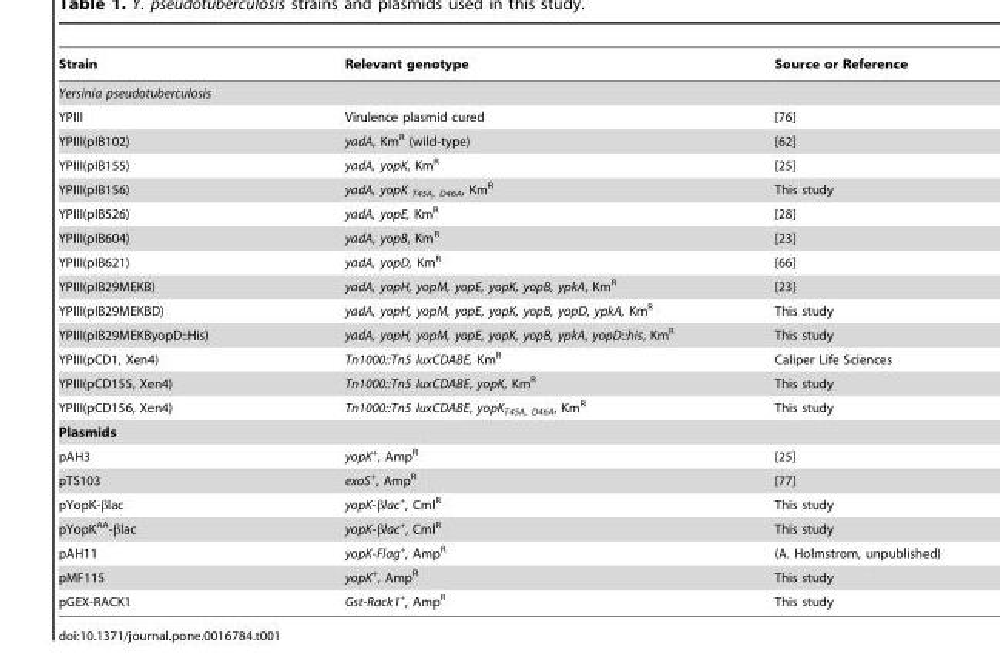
<table><thead><tr><td>Strain</td><td>Relevant genotype</td><td>Source or Reference</td></tr></thead><tbody><tr><td colspan="3">Yersinia pseudotuberculosis</td></tr><tr><td>YPIII</td><td>Virulence plasmid cured</td><td>[76]</td></tr><tr><td>YPIII(pIB102)</td><td>yadA, Km<sup>R</sup> (wild-type)</td><td>[62]</td></tr><tr><td>YPIII(pIB155)</td><td>yadA, yopK, Km<sup>R</sup></td><td>[25]</td></tr><tr><td>YPIII(pIB156)</td><td>yadA, yopK <sub>T45A, D46A</sub>, Km<sup>R</sup></td><td>This study</td></tr><tr><td>YPIII(pIB526)</td><td>yadA, yopE, Km<sup>R</sup></td><td>[28]</td></tr><tr><td>YPIII(pIB604)</td><td>yadA, yopB, Km<sup>R</sup></td><td>[23]</td></tr><tr><td>YPIII(pIB621)</td><td>yadA, yopD, Km<sup>R</sup></td><td>[66]</td></tr><tr><td>YPIII(pIB29MEKB)</td><td>yadA, yopH, yopM, yopE, yopK, yopB, ypkA, Km<sup>R</sup></td><td>[23]</td></tr><tr><td>YPIII(pIB29MEKBD)</td><td>yadA, yopH, yopM, yopE, yopK, yopB, yopD, ypkA, Km<sup>R</sup></td><td>This study</td></tr><tr><td>YPIII(pIB29MEKByopD::His)</td><td>yadA, yopH, yopM, yopE, yopK, yopB, ypkA, yopD::his, Km<sup>R</sup></td><td>This study</td></tr><tr><td>YPIII(pCD1, Xen4)</td><td>Tn1000::Tn5 luxCDABE, Km<sup>R</sup></td><td>Caliper Life Sciences</td></tr><tr><td>YPIII(pCD155, Xen4)</td><td>Tn1000::Tn5 luxCDABE, yopK, Km<sup>R</sup></td><td>This study</td></tr><tr><td>YPIII(pCD156, Xen4)</td><td>Tn1000::Tn5 luxCDABE, yopK<sub>T45A, D46A</sub>, Km<sup>R</sup></td><td>This study</td></tr><tr><td colspan="3">Plasmids</td></tr><tr><td>pAH3</td><td>yopK<sup>+</sup>, Amp<sup>R</sup></td><td>[25]</td></tr><tr><td>pTS103</td><td>exoS<sup>+</sup>, Amp<sup>R</sup></td><td>[77]</td></tr><tr><td>pYopK-βlac</td><td>yopK-βlac<sup>+</sup>, Cml<sup>R</sup></td><td>This study</td></tr><tr><td>pYopK<sup>AA</sup>-βlac</td><td>yopK-βlac<sup>+</sup>, Cml<sup>R</sup></td><td>This study</td></tr><tr><td>pAH11</td><td>yopK-Flag<sup>+</sup>, Amp<sup>R</sup></td><td>(A. Holmstrom, unpublished)</td></tr><tr><td>pMF115</td><td>yopK<sup>+</sup>, Amp<sup>R</sup></td><td>This study</td></tr><tr><td>pGEX-RACK1</td><td>Gst-Rack1<sup>+</sup>, Amp<sup>R</sup></td><td>This study</td></tr></tbody></table>